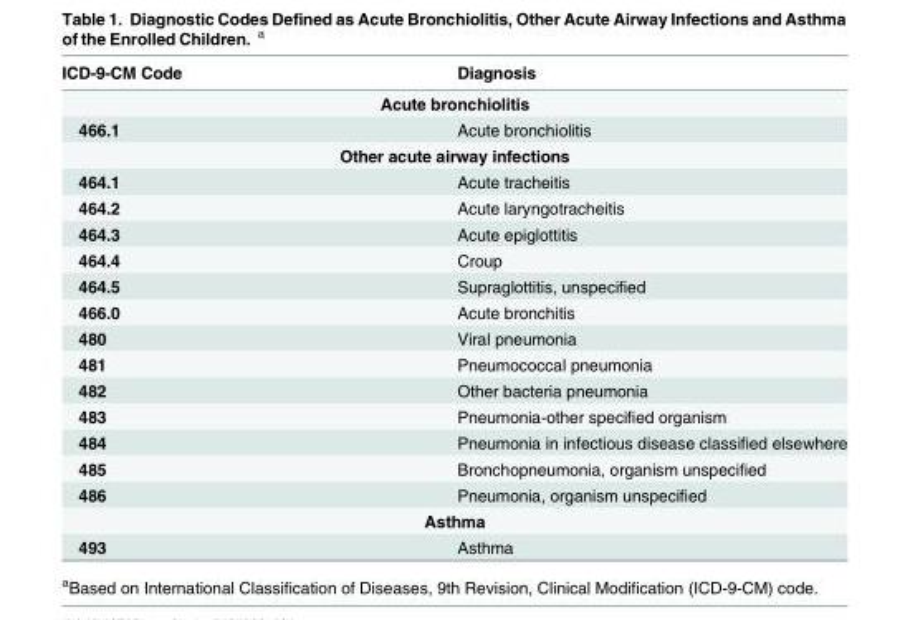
<table><thead><tr><td>ICD-9-CM Code</td><td>Diagnosis</td></tr></thead><tbody><tr><td colspan="2">Acute bronchiolitis</td></tr><tr><td>466.1</td><td>Acute bronchiolitis</td></tr><tr><td colspan="2">Other acute airway infections</td></tr><tr><td>464.1</td><td>Acute tracheitis</td></tr><tr><td>464.2</td><td>Acute laryngotracheitis</td></tr><tr><td>464.3</td><td>Acute epiglottitis</td></tr><tr><td>464.4</td><td>Croup</td></tr><tr><td>464.5</td><td>Supraglottitis, unspecified</td></tr><tr><td>466.0</td><td>Acute bronchitis</td></tr><tr><td>480</td><td>Viral pneumonia</td></tr><tr><td>481</td><td>Pneumococcal pneumonia</td></tr><tr><td>482</td><td>Other bacteria pneumonia</td></tr><tr><td>483</td><td>Pneumonia-other specified organism</td></tr><tr><td>484</td><td>Pneumonia in infectious disease classified elsewhere</td></tr><tr><td>485</td><td>Bronchopneumonia, organism unspecified</td></tr><tr><td>486</td><td>Pneumonia, organism unspecified</td></tr><tr><td colspan="2">Asthma</td></tr><tr><td>493</td><td>Asthma</td></tr></tbody></table>